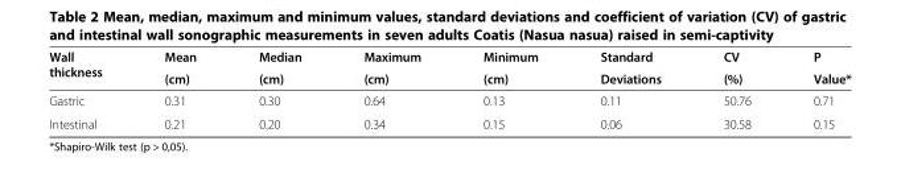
<table><thead><tr><td rowspan="2">Wall thickness</td><td rowspan="2">Mean (cm)</td><td rowspan="2">Median (cm)</td><td rowspan="2">Maximum (cm)</td><td rowspan="2">Minimum (cm)</td><td rowspan="2">Standard Deviations</td><td rowspan="2">CV (%)</td><td rowspan="2">P Value*</td></tr><tr></tr></thead><tbody><tr><td>Gastric</td><td>0.31</td><td>0.30</td><td>0.64</td><td>0.13</td><td>0.11</td><td>50.76</td><td>0.71</td></tr><tr><td>Intestinal</td><td>0.21</td><td>0.20</td><td>0.34</td><td>0.15</td><td>0.06</td><td>30.58</td><td>0.15</td></tr></tbody></table>